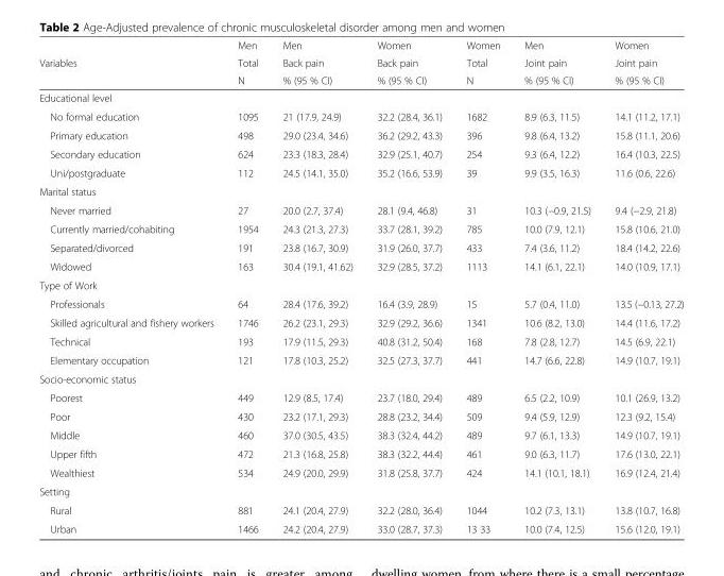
<table><thead><tr><td rowspan="3">Variables</td><td rowspan="3">Men Total N</td><td rowspan="3">Men Back pain % (95 % CI)</td><td rowspan="3">Women Back pain % (95 % CI)</td><td rowspan="3">Women Total N</td><td rowspan="3">Men Joint pain % (95 % CI)</td><td rowspan="3">Women Joint pain % (95 % CI)</td></tr><tr></tr><tr></tr></thead><tbody><tr><td colspan="7">Educational level</td></tr><tr><td>No formal education</td><td>1095</td><td>21 (17.9, 24.9)</td><td>32.2 (28.4, 36.1)</td><td>1682</td><td>8.9 (6.3, 11.5)</td><td>14.1 (11.2, 17.1)</td></tr><tr><td>Primary education</td><td>498</td><td>29.0 (23.4, 34.6)</td><td>36.2 (29.2, 43.3)</td><td>396</td><td>9.8 (6.4, 13.2)</td><td>15.8 (11.1, 20.6)</td></tr><tr><td>Secondary education</td><td>624</td><td>23.3 (18.3, 28.4)</td><td>32.9 (25.1, 40.7)</td><td>254</td><td>9.3 (6.4, 12.2)</td><td>16.4 (10.3, 22.5)</td></tr><tr><td>Uni/postgraduate</td><td>112</td><td>24.5 (14.1, 35.0)</td><td>35.2 (16.6, 53.9)</td><td>39</td><td>9.9 (3.5, 16.3)</td><td>11.6 (0.6, 22.6)</td></tr><tr><td colspan="7">Marital status</td></tr><tr><td>Never married</td><td>27</td><td>20.0 (2.7, 37.4)</td><td>28.1 (9.4, 46.8)</td><td>31</td><td>10.3 (−0.9, 21.5)</td><td>9.4 (−2.9, 21.8)</td></tr><tr><td>Currently married/cohabiting</td><td>1954</td><td>24.3 (21.3, 27.3)</td><td>33.7 (28.1, 39.2)</td><td>785</td><td>10.0 (7.9, 12.1)</td><td>15.8 (10.6, 21.0)</td></tr><tr><td>Separated/divorced</td><td>191</td><td>23.8 (16.7, 30.9)</td><td>31.9 (26.0, 37.7)</td><td>433</td><td>7.4 (3.6, 11.2)</td><td>18.4 (14.2, 22.6)</td></tr><tr><td>Widowed</td><td>163</td><td>30.4 (19.1, 41.62)</td><td>32.9 (28.5, 37.2)</td><td>1113</td><td>14.1 (6.1, 22.1)</td><td>14.0 (10.9, 17.1)</td></tr><tr><td colspan="7">Type of Work</td></tr><tr><td>Professionals</td><td>64</td><td>28.4 (17.6, 39.2)</td><td>16.4 (3.9, 28.9)</td><td>15</td><td>5.7 (0.4, 11.0)</td><td>13.5 (−0.13, 27.2)</td></tr><tr><td>Skilled agricultural and fishery workers</td><td>1746</td><td>26.2 (23.1, 29.3)</td><td>32.9 (29.2, 36.6)</td><td>1341</td><td>10.6 (8.2, 13.0)</td><td>14.4 (11.6, 17.2)</td></tr><tr><td>Technical</td><td>193</td><td>17.9 (11.5, 29.3)</td><td>40.8 (31.2, 50.4)</td><td>168</td><td>7.8 (2.8, 12.7)</td><td>14.5 (6.9, 22.1)</td></tr><tr><td>Elementary occupation</td><td>121</td><td>17.8 (10.3, 25.2)</td><td>32.5 (27.3, 37.7)</td><td>441</td><td>14.7 (6.6, 22.8)</td><td>14.9 (10.7, 19.1)</td></tr><tr><td colspan="7">Socio-economic status</td></tr><tr><td>Poorest</td><td>449</td><td>12.9 (8.5, 17.4)</td><td>23.7 (18.0, 29.4)</td><td>489</td><td>6.5 (2.2, 10.9)</td><td>10.1 (26.9, 13.2)</td></tr><tr><td>Poor</td><td>430</td><td>23.2 (17.1, 29.3)</td><td>28.8 (23.2, 34.4)</td><td>509</td><td>9.4 (5.9, 12.9)</td><td>12.3 (9.2, 15.4)</td></tr><tr><td>Middle</td><td>460</td><td>37.0 (30.5, 43.5)</td><td>38.3 (32.4, 44.2)</td><td>489</td><td>9.7 (6.1, 13.3)</td><td>14.9 (10.7, 19.1)</td></tr><tr><td>Upper fifth</td><td>472</td><td>21.3 (16.8, 25.8)</td><td>38.3 (32.2, 44.4)</td><td>461</td><td>9.0 (6.3, 11.7)</td><td>17.6 (13.0, 22.1)</td></tr><tr><td>Wealthiest</td><td>534</td><td>24.9 (20.0, 29.9)</td><td>31.8 (25.8, 37.7)</td><td>424</td><td>14.1 (10.1, 18.1)</td><td>16.9 (12.4, 21.4)</td></tr><tr><td colspan="7">Setting</td></tr><tr><td>Rural</td><td>881</td><td>24.1 (20.4, 27.9)</td><td>32.2 (28.0, 36.4)</td><td>1044</td><td>10.2 (7.3, 13.1)</td><td>13.8 (10.7, 16.8)</td></tr><tr><td>Urban</td><td>1466</td><td>24.2 (20.4, 27.9)</td><td>33.0 (28.7, 37.3)</td><td>13 33</td><td>10.0 (7.4, 12.5)</td><td>15.6 (12.0, 19.1)</td></tr></tbody></table>